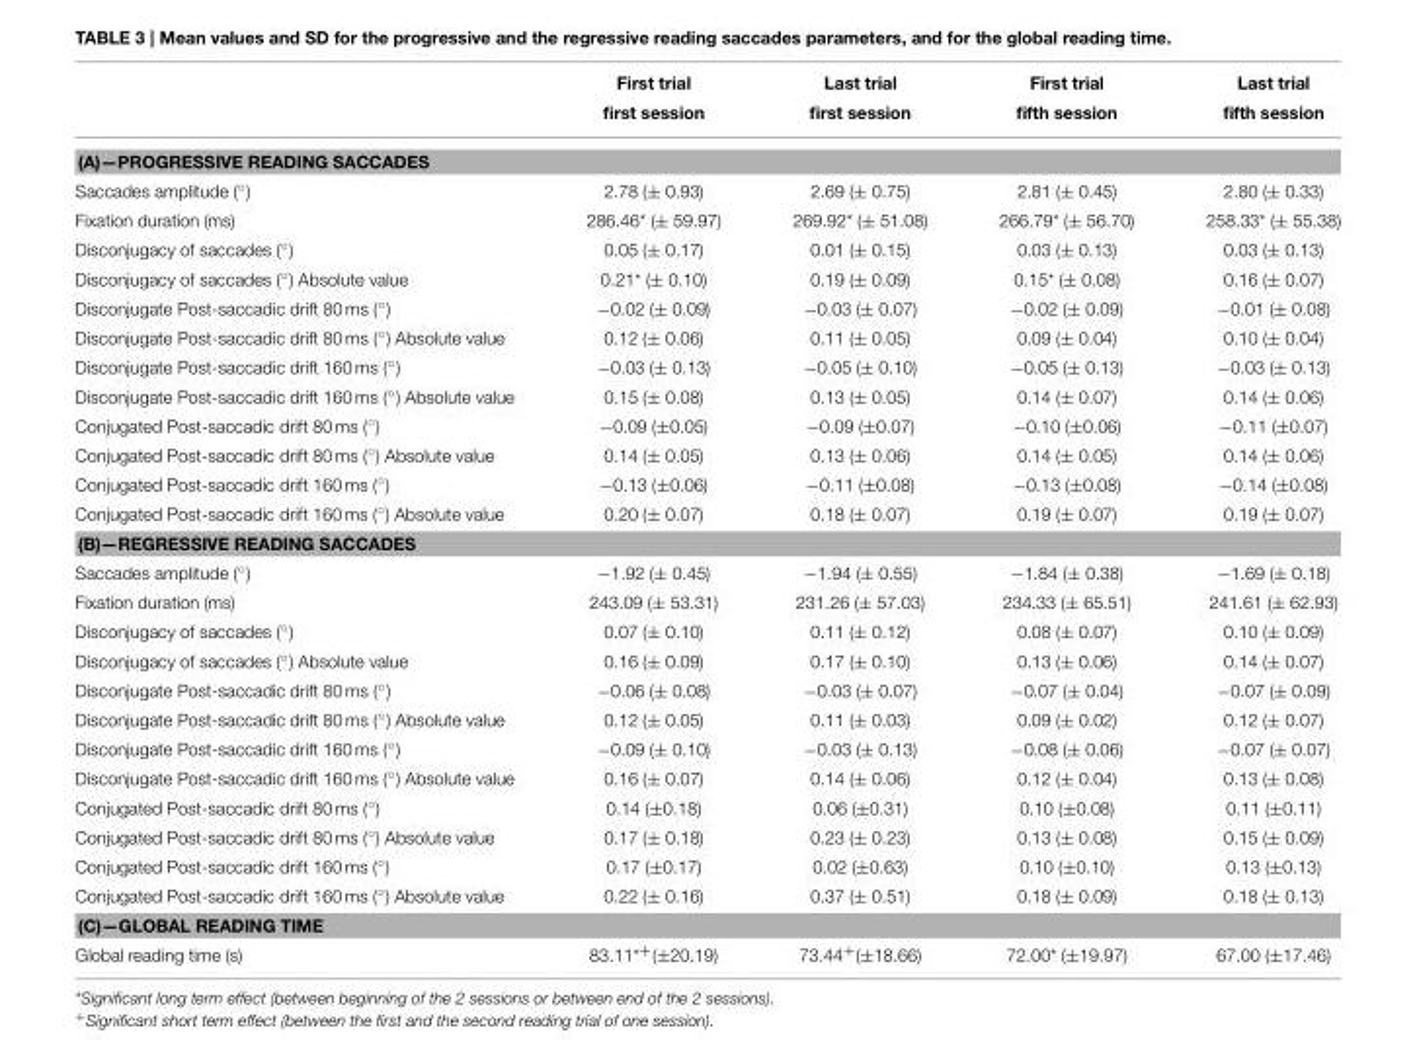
<table><thead><tr><td></td><td>First trial first session</td><td>Last trial first session</td><td>First trial fifth session</td><td>Last trial fifth session</td></tr></thead><tbody><tr><td colspan="5">(A)—PROGRESSIVE READING SACCADES</td></tr><tr><td>Saccades amplitude (◦)</td><td>2.78 (± 0.93)</td><td>2.69 (± 0.75)</td><td>2.81 (± 0.45)</td><td>2.80 (± 0.33)</td></tr><tr><td>Fixation duration (ms)</td><td>286.46* (± 59.97)</td><td>269.92* (± 51.08)</td><td>266.79* (± 56.70)</td><td>258.33* (± 55.38)</td></tr><tr><td>Disconjugacy of saccades (◦)</td><td>0.05 (± 0.17)</td><td>0.01 (± 0.15)</td><td>0.03 (± 0.13)</td><td>0.03 (± 0.13)</td></tr><tr><td>Disconjugacy of saccades (◦) Absolute value</td><td>0.21* (± 0.10)</td><td>0.19 (± 0.09)</td><td>0.15* (± 0.08)</td><td>0.16 (± 0.07)</td></tr><tr><td>Disconjugate Post-saccadic drift 80 ms (◦)</td><td>−0.02 (± 0.09)</td><td>−0.03 (± 0.07)</td><td>−0.02 (± 0.09)</td><td>−0.01 (± 0.08)</td></tr><tr><td>Disconjugate Post-saccadic drift 80 ms (◦) Absolute value</td><td>0.12 (± 0.06)</td><td>0.11 (± 0.05)</td><td>0.09 (± 0.04)</td><td>0.10 (± 0.04)</td></tr><tr><td>Disconjugate Post-saccadic drift 160 ms (◦)</td><td>−0.03 (± 0.13)</td><td>−0.05 (± 0.10)</td><td>−0.05 (± 0.13)</td><td>−0.03 (± 0.13)</td></tr><tr><td>Disconjugate Post-saccadic drift 160 ms (◦) Absolute value</td><td>0.15 (± 0.08)</td><td>0.13 (± 0.05)</td><td>0.14 (± 0.07)</td><td>0.14 (± 0.06)</td></tr><tr><td>Conjugated Post-saccadic drift 80 ms (◦)</td><td>−0.09 (±0.05)</td><td>−0.09 (±0.07)</td><td>−0.10 (±0.06)</td><td>−0.11 (±0.07)</td></tr><tr><td>Conjugated Post-saccadic drift 80 ms (◦) Absolute value</td><td>0.14 (± 0.05)</td><td>0.13 (± 0.06)</td><td>0.14 (± 0.05)</td><td>0.14 (± 0.06)</td></tr><tr><td>Conjugated Post-saccadic drift 160 ms (◦)</td><td>−0.13 (±0.06)</td><td>−0.11 (±0.08)</td><td>−0.13 (±0.08)</td><td>−0.14 (±0.08)</td></tr><tr><td>Conjugated Post-saccadic drift 160 ms (◦) Absolute value</td><td>0.20 (± 0.07)</td><td>0.18 (± 0.07)</td><td>0.19 (± 0.07)</td><td>0.19 (± 0.07)</td></tr><tr><td colspan="5">(B)—REGRESSIVE READING SACCADES</td></tr><tr><td>Saccades amplitude (◦)</td><td>−1.92 (± 0.45)</td><td>−1.94 (± 0.55)</td><td>−1.84 (± 0.38)</td><td>−1.69 (± 0.18)</td></tr><tr><td>Fixation duration (ms)</td><td>243.09 (± 53.31)</td><td>231.26 (± 57.03)</td><td>234.33 (± 65.51)</td><td>241.61 (± 62.93)</td></tr><tr><td>Disconjugacy of saccades (◦)</td><td>0.07 (± 0.10)</td><td>0.11 (± 0.12)</td><td>0.08 (± 0.07)</td><td>0.10 (± 0.09)</td></tr><tr><td>Disconjugacy of saccades (◦) Absolute value</td><td>0.16 (± 0.09)</td><td>0.17 (± 0.10)</td><td>0.13 (± 0.06)</td><td>0.14 (± 0.07)</td></tr><tr><td>Disconjugate Post-saccadic drift 80 ms (◦)</td><td>−0.06 (± 0.08)</td><td>−0.03 (± 0.07)</td><td>−0.07 (± 0.04)</td><td>−0.07 (± 0.09)</td></tr><tr><td>Disconjugate Post-saccadic drift 80 ms (◦) Absolute value</td><td>0.12 (± 0.05)</td><td>0.11 (± 0.03)</td><td>0.09 (± 0.02)</td><td>0.12 (± 0.07)</td></tr><tr><td>Disconjugate Post-saccadic drift 160 ms (◦)</td><td>−0.09 (± 0.10)</td><td>−0.03 (± 0.13)</td><td>−0.08 (± 0.06)</td><td>−0.07 (± 0.07)</td></tr><tr><td>Disconjugate Post-saccadic drift 160 ms (◦) Absolute value</td><td>0.16 (± 0.07)</td><td>0.14 (± 0.06)</td><td>0.12 (± 0.04)</td><td>0.13 (± 0.08)</td></tr><tr><td>Conjugated Post-saccadic drift 80 ms (◦)</td><td>0.14 (±0.18)</td><td>0.06 (±0.31)</td><td>0.10 (±0.08)</td><td>0.11 (±0.11)</td></tr><tr><td>Conjugated Post-saccadic drift 80 ms (◦) Absolute value</td><td>0.17 (± 0.18)</td><td>0.23 (± 0.23)</td><td>0.13 (± 0.08)</td><td>0.15 (± 0.09)</td></tr><tr><td>Conjugated Post-saccadic drift 160 ms (◦)</td><td>0.17 (±0.17)</td><td>0.02 (±0.63)</td><td>0.10 (±0.10)</td><td>0.13 (±0.13)</td></tr><tr><td>Conjugated Post-saccadic drift 160 ms (◦) Absolute value</td><td>0.22 (± 0.16)</td><td>0.37 (± 0.51)</td><td>0.18 (± 0.09)</td><td>0.18 (± 0.13)</td></tr><tr><td colspan="5">(C)—GLOBAL READING TIME</td></tr><tr><td>Global reading time (s)</td><td>83.11<sup>*+</sup>(±20.19)</td><td>73.44<sup>+</sup>(±18.66)</td><td>72.00* (±19.97)</td><td>67.00 (±17.46)</td></tr></tbody></table>